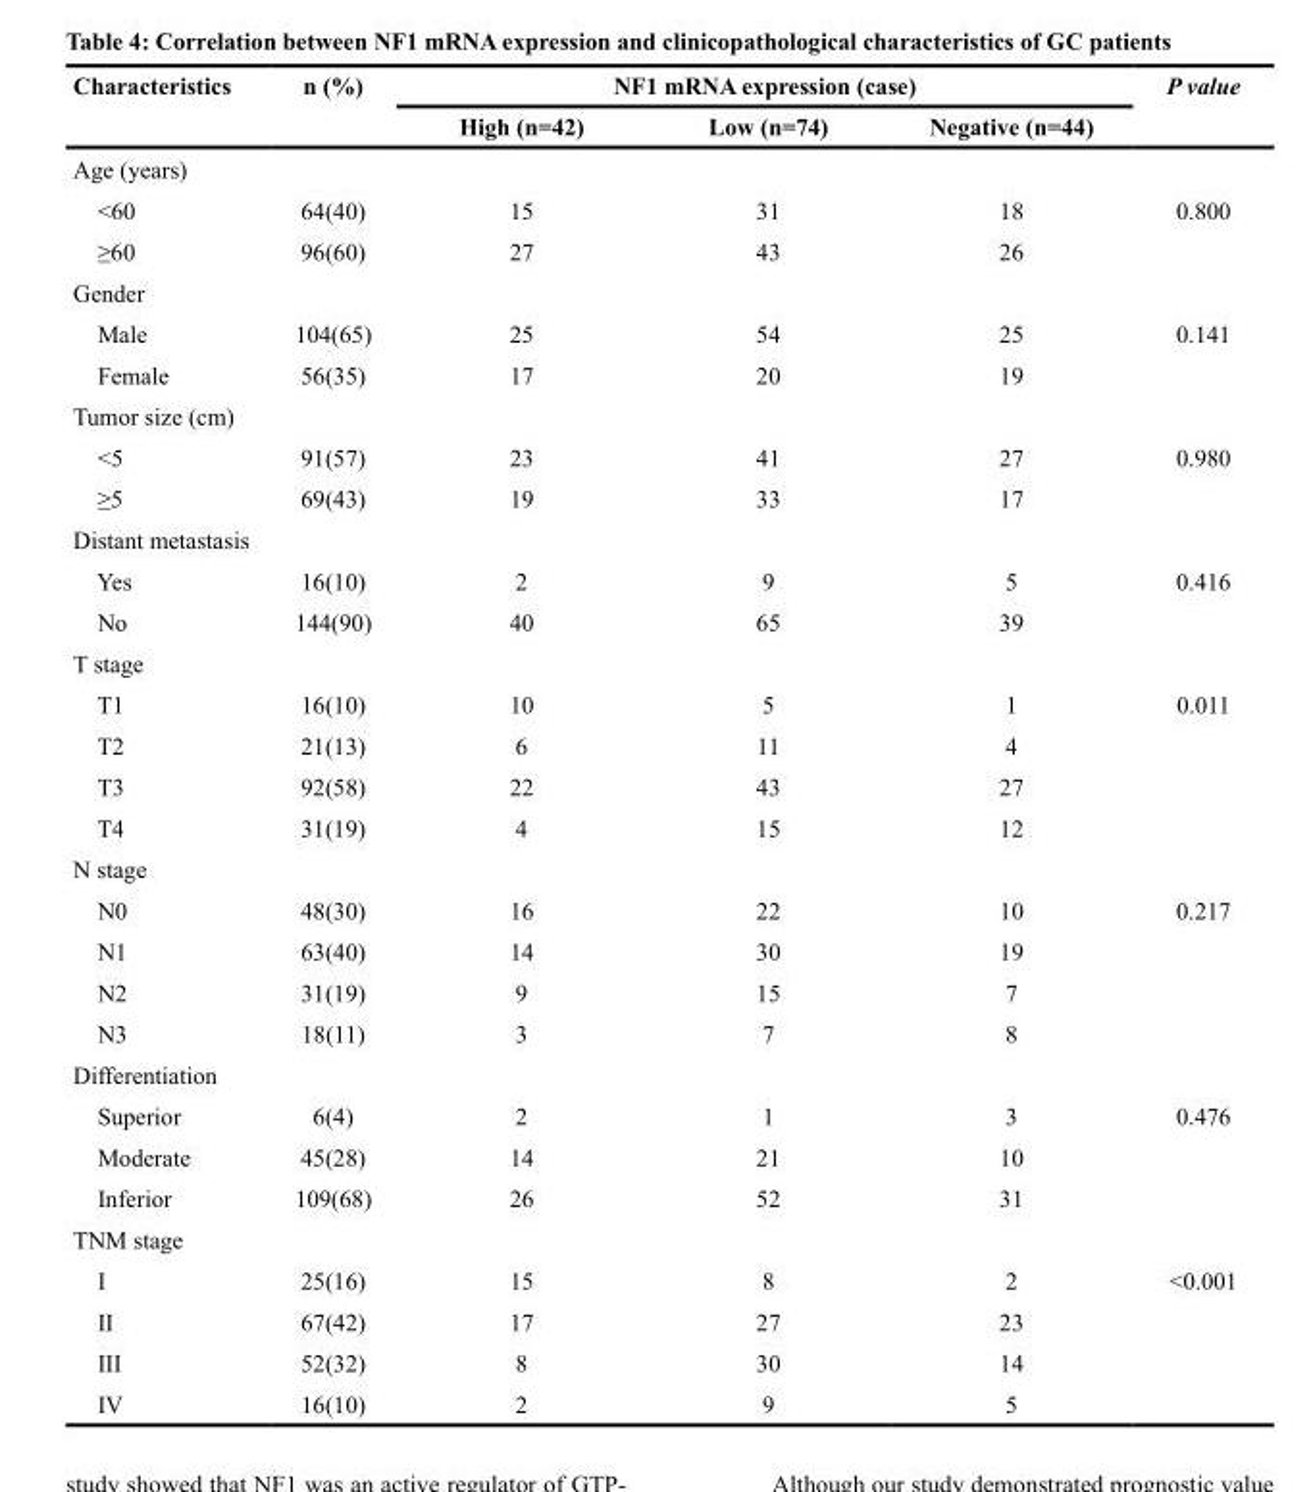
<table><thead><tr><td rowspan="2">Characteristics</td><td rowspan="2">n (%)</td><td colspan="3">NF1 mRNA expression (case)</td><td rowspan="2">P value</td></tr><tr><td>High (n=42)</td><td>Low (n=74)</td><td>Negative (n=44)</td></tr></thead><tbody><tr><td colspan="6">Age (years)</td></tr><tr><td>&lt;60</td><td>64(40)</td><td>15</td><td>31</td><td>18</td><td>0.800</td></tr><tr><td>≥60</td><td>96(60)</td><td>27</td><td>43</td><td>26</td><td></td></tr><tr><td colspan="6">Gender</td></tr><tr><td>Male</td><td>104(65)</td><td>25</td><td>54</td><td>25</td><td>0.141</td></tr><tr><td>Female</td><td>56(35)</td><td>17</td><td>20</td><td>19</td><td></td></tr><tr><td colspan="6">Tumor size (cm)</td></tr><tr><td>&lt;5</td><td>91(57)</td><td>23</td><td>41</td><td>27</td><td>0.980</td></tr><tr><td>≥5</td><td>69(43)</td><td>19</td><td>33</td><td>17</td><td></td></tr><tr><td colspan="6">Distant metastasis</td></tr><tr><td>Yes</td><td>16(10)</td><td>2</td><td>9</td><td>5</td><td>0.416</td></tr><tr><td>No</td><td>144(90)</td><td>40</td><td>65</td><td>39</td><td></td></tr><tr><td colspan="6">T stage</td></tr><tr><td>T1</td><td>16(10)</td><td>10</td><td>5</td><td>1</td><td>0.011</td></tr><tr><td>T2</td><td>21(13)</td><td>6</td><td>11</td><td>4</td><td></td></tr><tr><td>T3</td><td>92(58)</td><td>22</td><td>43</td><td>27</td><td></td></tr><tr><td>T4</td><td>31(19)</td><td>4</td><td>15</td><td>12</td><td></td></tr><tr><td colspan="6">N stage</td></tr><tr><td>N0</td><td>48(30)</td><td>16</td><td>22</td><td>10</td><td>0.217</td></tr><tr><td>N1</td><td>63(40)</td><td>14</td><td>30</td><td>19</td><td></td></tr><tr><td>N2</td><td>31(19)</td><td>9</td><td>15</td><td>7</td><td></td></tr><tr><td>N3</td><td>18(11)</td><td>3</td><td>7</td><td>8</td><td></td></tr><tr><td colspan="6">Differentiation</td></tr><tr><td>Superior</td><td>6(4)</td><td>2</td><td>1</td><td>3</td><td>0.476</td></tr><tr><td>Moderate</td><td>45(28)</td><td>14</td><td>21</td><td>10</td><td></td></tr><tr><td>Inferior</td><td>109(68)</td><td>26</td><td>52</td><td>31</td><td></td></tr><tr><td colspan="6">TNM stage</td></tr><tr><td>I</td><td>25(16)</td><td>15</td><td>8</td><td>2</td><td>&lt;0.001</td></tr><tr><td>II</td><td>67(42)</td><td>17</td><td>27</td><td>23</td><td></td></tr><tr><td>III</td><td>52(32)</td><td>8</td><td>30</td><td>14</td><td></td></tr><tr><td>IV</td><td>16(10)</td><td>2</td><td>9</td><td>5</td><td></td></tr></tbody></table>